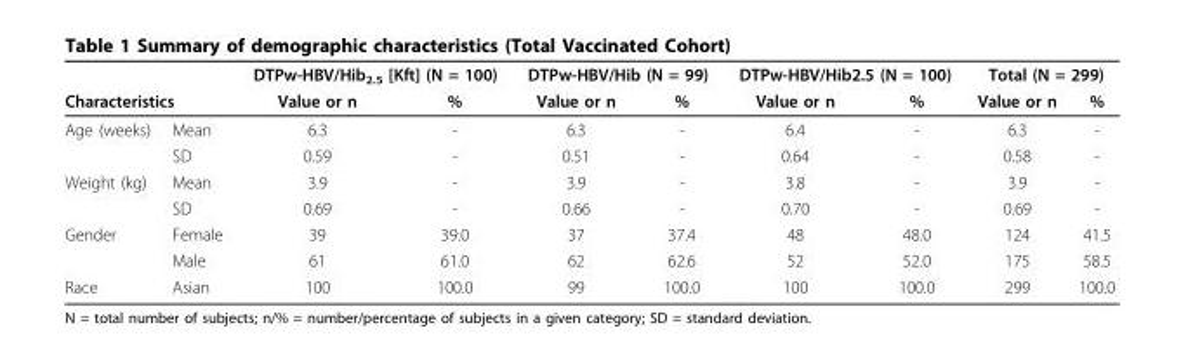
<table><thead><tr><td></td><td></td><td colspan="2">DTPw-HBV/Hib<sub>2.5</sub> [Kft] (N = 100)</td><td colspan="2">DTPw-HBV/Hib (N = 99)</td><td colspan="2">DTPw-HBV/Hib2.5 (N = 100)</td><td colspan="2">Total (N = 299)</td></tr><tr><td colspan="2">Characteristics</td><td>Value or n</td><td>%</td><td>Value or n</td><td>%</td><td>Value or n</td><td>%</td><td>Value or n</td><td>%</td></tr></thead><tbody><tr><td rowspan="2">Age (weeks)</td><td>Mean</td><td>6.3</td><td>-</td><td>6.3</td><td>-</td><td>6.4</td><td>-</td><td>6.3</td><td>-</td></tr><tr><td>SD</td><td>0.59</td><td>-</td><td>0.51</td><td>-</td><td>0.64</td><td>-</td><td>0.58</td><td>-</td></tr><tr><td rowspan="2">Weight (kg)</td><td>Mean</td><td>3.9</td><td>-</td><td>3.9</td><td>-</td><td>3.8</td><td>-</td><td>3.9</td><td>-</td></tr><tr><td>SD</td><td>0.69</td><td>-</td><td>0.66</td><td>-</td><td>0.70</td><td>-</td><td>0.69</td><td>-</td></tr><tr><td rowspan="2">Gender</td><td>Female</td><td>39</td><td>39.0</td><td>37</td><td>37.4</td><td>48</td><td>48.0</td><td>124</td><td>41.5</td></tr><tr><td>Male</td><td>61</td><td>61.0</td><td>62</td><td>62.6</td><td>52</td><td>52.0</td><td>175</td><td>58.5</td></tr><tr><td>Race</td><td>Asian</td><td>100</td><td>100.0</td><td>99</td><td>100.0</td><td>100</td><td>100.0</td><td>299</td><td>100.0</td></tr></tbody></table>